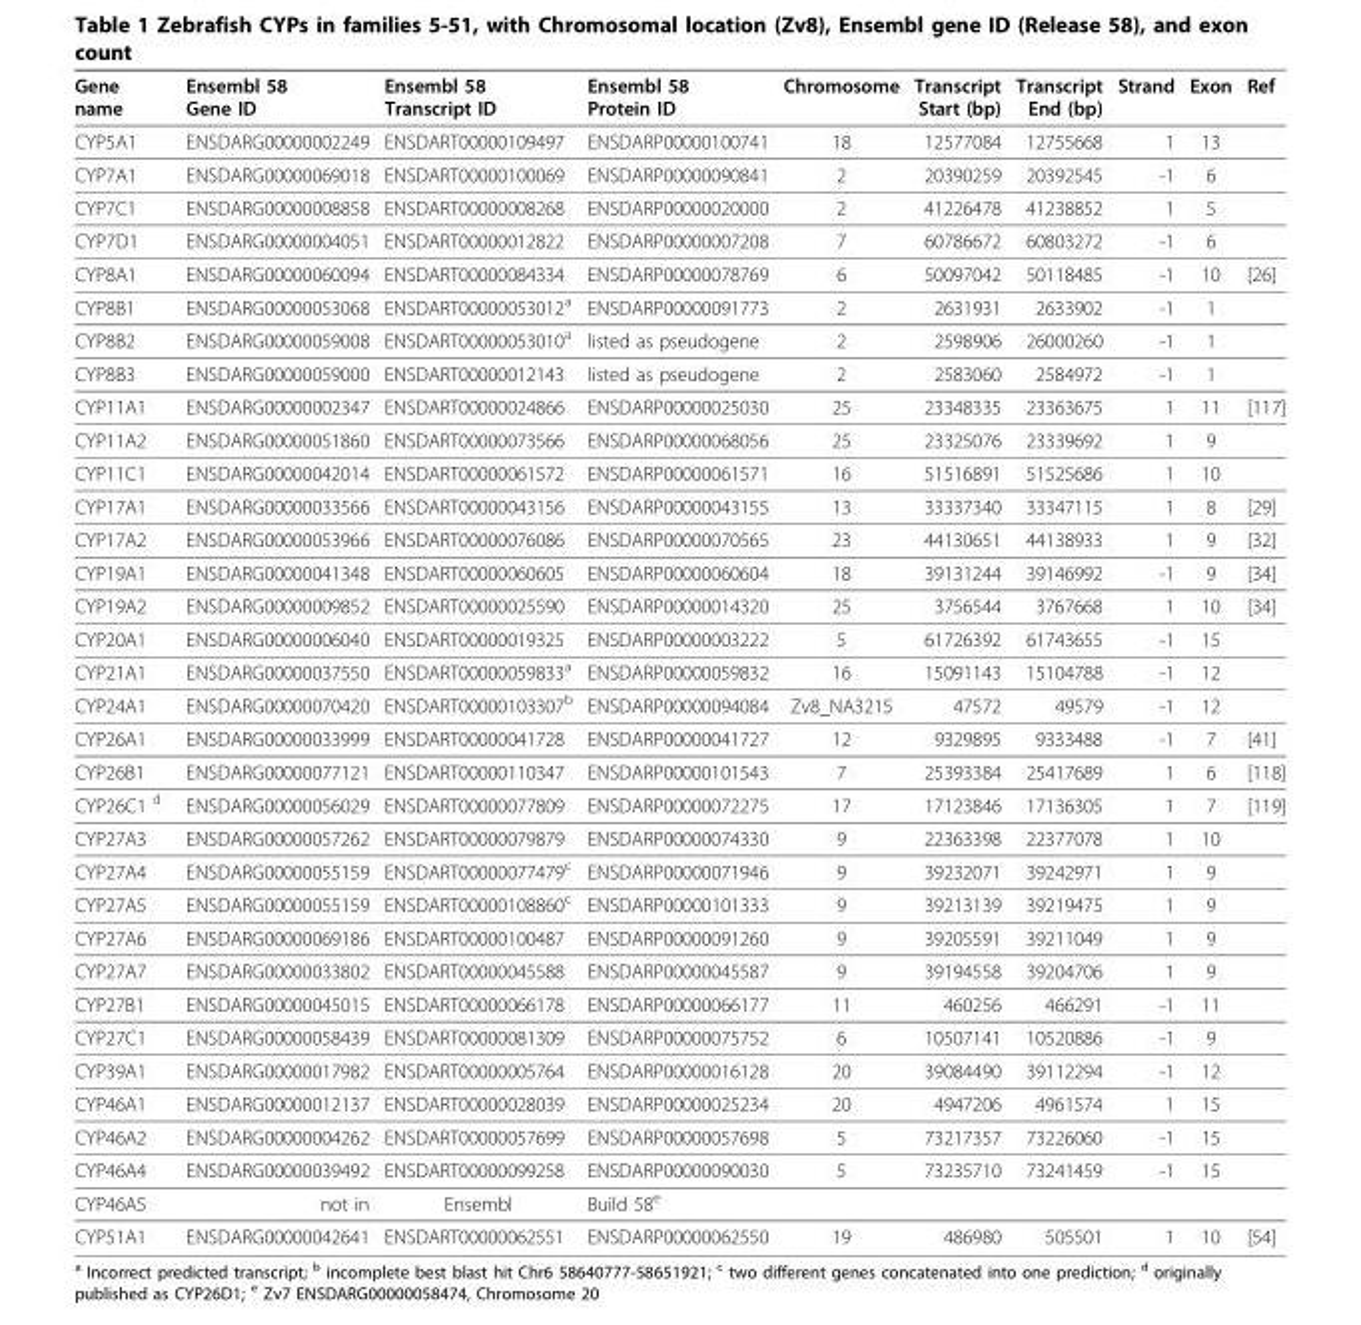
<table><thead><tr><td>Gene name</td><td>Ensembl 58 Gene ID</td><td>Ensembl 58 Transcript ID</td><td>Ensembl 58 Protein ID</td><td>Chromosome</td><td>Transcript Start (bp)</td><td>Transcript End (bp)</td><td>Strand</td><td>Exon</td><td>Ref</td></tr></thead><tbody><tr><td>CYP5A1</td><td>ENSDARG00000002249</td><td>ENSDART00000109497</td><td>ENSDARP00000100741</td><td>18</td><td>12577084</td><td>12755668</td><td>1</td><td>13</td><td></td></tr><tr><td>CYP7A1</td><td>ENSDARG00000069018</td><td>ENSDART00000100069</td><td>ENSDARP00000090841</td><td>2</td><td>20390259</td><td>20392545</td><td>-1</td><td>6</td><td></td></tr><tr><td>CYP7C1</td><td>ENSDARG00000008858</td><td>ENSDART00000008268</td><td>ENSDARP00000020000</td><td>2</td><td>41226478</td><td>41238852</td><td>1</td><td>5</td><td></td></tr><tr><td>CYP7D1</td><td>ENSDARG00000004051</td><td>ENSDART00000012822</td><td>ENSDARP00000007208</td><td>7</td><td>60786672</td><td>60803272</td><td>-1</td><td>6</td><td></td></tr><tr><td>CYP8A1</td><td>ENSDARG00000060094</td><td>ENSDART00000084334</td><td>ENSDARP00000078769</td><td>6</td><td>50097042</td><td>50118485</td><td>-1</td><td>10</td><td>[26]</td></tr><tr><td>CYP8B1</td><td>ENSDARG00000053068</td><td>ENSDART00000053012<sup>a</sup></td><td>ENSDARP00000091773</td><td>2</td><td>2631931</td><td>2633902</td><td>-1</td><td>1</td><td></td></tr><tr><td>CYP8B2</td><td>ENSDARG00000059008</td><td>ENSDART00000053010<sup>a</sup></td><td>listed as pseudogene</td><td>2</td><td>2598906</td><td>26000260</td><td>-1</td><td>1</td><td></td></tr><tr><td>CYP8B3</td><td>ENSDARG00000059000</td><td>ENSDART00000012143</td><td>listed as pseudogene</td><td>2</td><td>2583060</td><td>2584972</td><td>-1</td><td>1</td><td></td></tr><tr><td>CYP11A1</td><td>ENSDARG00000002347</td><td>ENSDART00000024866</td><td>ENSDARP00000025030</td><td>25</td><td>23348335</td><td>23363675</td><td>1</td><td>11</td><td>[117]</td></tr><tr><td>CYP11A2</td><td>ENSDARG00000051860</td><td>ENSDART00000073566</td><td>ENSDARP00000068056</td><td>25</td><td>23325076</td><td>23339692</td><td>1</td><td>9</td><td></td></tr><tr><td>CYP11C1</td><td>ENSDARG00000042014</td><td>ENSDART00000061572</td><td>ENSDARP00000061571</td><td>16</td><td>51516891</td><td>51525686</td><td>1</td><td>10</td><td></td></tr><tr><td>CYP17A1</td><td>ENSDARG00000033566</td><td>ENSDART00000043156</td><td>ENSDARP00000043155</td><td>13</td><td>33337340</td><td>33347115</td><td>1</td><td>8</td><td>[29]</td></tr><tr><td>CYP17A2</td><td>ENSDARG00000053966</td><td>ENSDART00000076086</td><td>ENSDARP00000070565</td><td>23</td><td>44130651</td><td>44138933</td><td>1</td><td>9</td><td>[32]</td></tr><tr><td>CYP19A1</td><td>ENSDARG00000041348</td><td>ENSDART00000060605</td><td>ENSDARP00000060604</td><td>18</td><td>39131244</td><td>39146992</td><td>-1</td><td>9</td><td>[34]</td></tr><tr><td>CYP19A2</td><td>ENSDARG00000009852</td><td>ENSDART00000025590</td><td>ENSDARP00000014320</td><td>25</td><td>3756544</td><td>3767668</td><td>1</td><td>10</td><td>[34]</td></tr><tr><td>CYP20A1</td><td>ENSDARG00000006040</td><td>ENSDART00000019325</td><td>ENSDARP00000003222</td><td>5</td><td>61726392</td><td>61743655</td><td>-1</td><td>15</td><td></td></tr><tr><td>CYP21A1</td><td>ENSDARG00000037550</td><td>ENSDART00000059833<sup>a</sup></td><td>ENSDARP00000059832</td><td>16</td><td>15091143</td><td>15104788</td><td>-1</td><td>12</td><td></td></tr><tr><td>CYP24A1</td><td>ENSDARG00000070420</td><td>ENSDART00000103307<sup>b</sup></td><td>ENSDARP00000094084</td><td>Zv8_NA3215</td><td>47572</td><td>49579</td><td>-1</td><td>12</td><td></td></tr><tr><td>CYP26A1</td><td>ENSDARG00000033999</td><td>ENSDART00000041728</td><td>ENSDARP00000041727</td><td>12</td><td>9329895</td><td>9333488</td><td>-1</td><td>7</td><td>[41]</td></tr><tr><td>CYP26B1</td><td>ENSDARG00000077121</td><td>ENSDART00000110347</td><td>ENSDARP00000101543</td><td>7</td><td>25393384</td><td>25417689</td><td>1</td><td>6</td><td>[118]</td></tr><tr><td>CYP26C1 <sup>d</sup></td><td>ENSDARG00000056029</td><td>ENSDART00000077809</td><td>ENSDARP00000072275</td><td>17</td><td>17123846</td><td>17136305</td><td>1</td><td>7</td><td>[119]</td></tr><tr><td>CYP27A3</td><td>ENSDARG00000057262</td><td>ENSDART00000079879</td><td>ENSDARP00000074330</td><td>9</td><td>22363398</td><td>22377078</td><td>1</td><td>10</td><td></td></tr><tr><td>CYP27A4</td><td>ENSDARG00000055159</td><td>ENSDART00000077479<sup>c</sup></td><td>ENSDARP00000071946</td><td>9</td><td>39232071</td><td>39242971</td><td>1</td><td>9</td><td></td></tr><tr><td>CYP27A5</td><td>ENSDARG00000055159</td><td>ENSDART00000108860<sup>c</sup></td><td>ENSDARP00000101333</td><td>9</td><td>39213139</td><td>39219475</td><td>1</td><td>9</td><td></td></tr><tr><td>CYP27A6</td><td>ENSDARG00000069186</td><td>ENSDART00000100487</td><td>ENSDARP00000091260</td><td>9</td><td>39205591</td><td>39211049</td><td>1</td><td>9</td><td></td></tr><tr><td>CYP27A7</td><td>ENSDARG00000033802</td><td>ENSDART00000045588</td><td>ENSDARP00000045587</td><td>9</td><td>39194558</td><td>39204706</td><td>1</td><td>9</td><td></td></tr><tr><td>CYP27B1</td><td>ENSDARG00000045015</td><td>ENSDART00000066178</td><td>ENSDARP00000066177</td><td>11</td><td>460256</td><td>466291</td><td>-1</td><td>11</td><td></td></tr><tr><td>CYP27C1</td><td>ENSDARG00000058439</td><td>ENSDART00000081309</td><td>ENSDARP00000075752</td><td>6</td><td>10507141</td><td>10520886</td><td>-1</td><td>9</td><td></td></tr><tr><td>CYP39A1</td><td>ENSDARG00000017982</td><td>ENSDART00000005764</td><td>ENSDARP00000016128</td><td>20</td><td>39084490</td><td>39112294</td><td>-1</td><td>12</td><td></td></tr><tr><td>CYP46A1</td><td>ENSDARG00000012137</td><td>ENSDART00000028039</td><td>ENSDARP00000025234</td><td>20</td><td>4947206</td><td>4961574</td><td>1</td><td>15</td><td></td></tr><tr><td>CYP46A2</td><td>ENSDARG00000004262</td><td>ENSDART00000057699</td><td>ENSDARP00000057698</td><td>5</td><td>73217357</td><td>73226060</td><td>-1</td><td>15</td><td></td></tr><tr><td>CYP46A4</td><td>ENSDARG00000039492</td><td>ENSDART00000099258</td><td>ENSDARP00000090030</td><td>5</td><td>73235710</td><td>73241459</td><td>-1</td><td>15</td><td></td></tr><tr><td>CYP46A5</td><td>not in</td><td>Ensembl</td><td>Build 58<sup>e</sup></td><td></td><td></td><td></td><td></td><td></td><td></td></tr><tr><td>CYP51A1</td><td>ENSDARG00000042641</td><td>ENSDART00000062551</td><td>ENSDARP00000062550</td><td>19</td><td>486980</td><td>505501</td><td>1</td><td>10</td><td>[54]</td></tr></tbody></table>